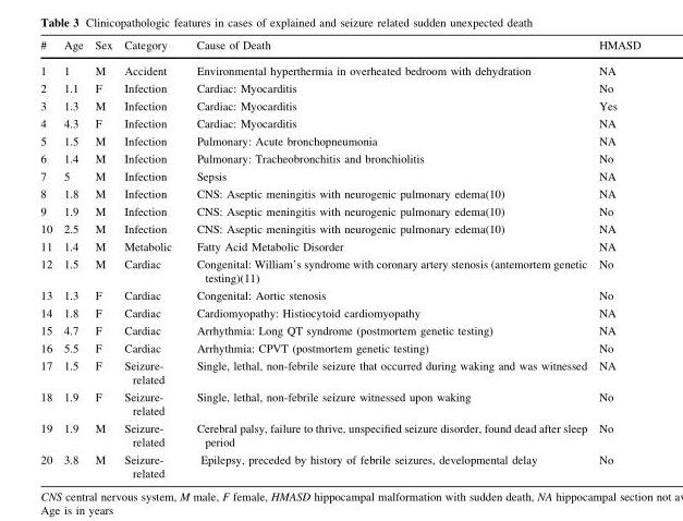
<table><thead><tr><td>#</td><td>Age</td><td>Sex</td><td>Category</td><td>Cause of Death</td><td>HMASD</td></tr></thead><tbody><tr><td>1</td><td>1</td><td>M</td><td>Accident</td><td>Environmental hyperthermia in overheated bedroom with dehydration</td><td>NA</td></tr><tr><td>2</td><td>1.1</td><td>F</td><td>Infection</td><td>Cardiac: Myocarditis</td><td>No</td></tr><tr><td>3</td><td>1.3</td><td>M</td><td>Infection</td><td>Cardiac: Myocarditis</td><td>Yes</td></tr><tr><td>4</td><td>4.3</td><td>F</td><td>Infection</td><td>Cardiac: Myocarditis</td><td>NA</td></tr><tr><td>5</td><td>1.5</td><td>M</td><td>Infection</td><td>Pulmonary: Acute bronchopneumonia</td><td>NA</td></tr><tr><td>6</td><td>1.4</td><td>M</td><td>Infection</td><td>Pulmonary: Tracheobronchitis and bronchiolitis</td><td>No</td></tr><tr><td>7</td><td>5</td><td>M</td><td>Infection</td><td>Sepsis</td><td>NA</td></tr><tr><td>8</td><td>1.8</td><td>M</td><td>Infection</td><td>CNS: Aseptic meningitis with neurogenic pulmonary edema(10)</td><td>NA</td></tr><tr><td>9</td><td>1.9</td><td>M</td><td>Infection</td><td>CNS: Aseptic meningitis with neurogenic pulmonary edema(10)</td><td>No</td></tr><tr><td>10</td><td>2.5</td><td>M</td><td>Infection</td><td>CNS: Aseptic meningitis with neurogenic pulmonary edema(10)</td><td>NA</td></tr><tr><td>11</td><td>1.4</td><td>M</td><td>Metabolic</td><td>Fatty Acid Metabolic Disorder</td><td>NA</td></tr><tr><td>12</td><td>1.5</td><td>M</td><td>Cardiac</td><td>Congenital: William’s syndrome with coronary artery stenosis (antemortem genetic testing)(11)</td><td>No</td></tr><tr><td>13</td><td>1.3</td><td>F</td><td>Cardiac</td><td>Congenital: Aortic stenosis</td><td>No</td></tr><tr><td>14</td><td>1.8</td><td>F</td><td>Cardiac</td><td>Cardiomyopathy: Histiocytoid cardiomyopathy</td><td>NA</td></tr><tr><td>15</td><td>4.7</td><td>F</td><td>Cardiac</td><td>Arrhythmia: Long QT syndrome (postmortem genetic testing)</td><td>NA</td></tr><tr><td>16</td><td>5.5</td><td>F</td><td>Cardiac</td><td>Arrhythmia: CPVT (postmortem genetic testing)</td><td>No</td></tr><tr><td>17</td><td>1.5</td><td>F</td><td>Seizure- related</td><td>Single, lethal, non-febrile seizure that occurred during waking and was witnessed</td><td>NA</td></tr><tr><td>18</td><td>1.9</td><td>F</td><td>Seizure- related</td><td>Single, lethal, non-febrile seizure witnessed upon waking</td><td>No</td></tr><tr><td>19</td><td>1.9</td><td>M</td><td>Seizure- related</td><td>Cerebral palsy, failure to thrive, unspecified seizure disorder, found dead after sleep period</td><td>No</td></tr><tr><td>20</td><td>3.8</td><td>M</td><td>Seizure- related</td><td>Epilepsy, preceded by history of febrile seizures, developmental delay</td><td>No</td></tr></tbody></table>